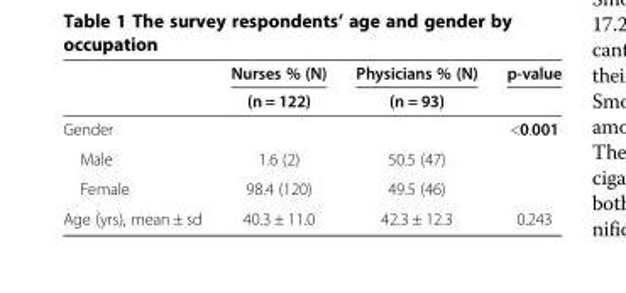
<table><thead><tr><td rowspan="2"></td><td rowspan="2">Nurses % (N) (n = 122)</td><td rowspan="2">Physicians % (N) (n = 93)</td><td rowspan="2">p-value</td></tr><tr></tr></thead><tbody><tr><td>Gender</td><td></td><td></td><td>&lt;0.001</td></tr><tr><td>Male</td><td>1.6 (2)</td><td>50.5 (47)</td><td></td></tr><tr><td>Female</td><td>98.4 (120)</td><td>49.5 (46)</td><td></td></tr><tr><td>Age (yrs), mean ± sd</td><td>40.3 ± 11.0</td><td>42.3 ± 12.3</td><td>0.243</td></tr></tbody></table>